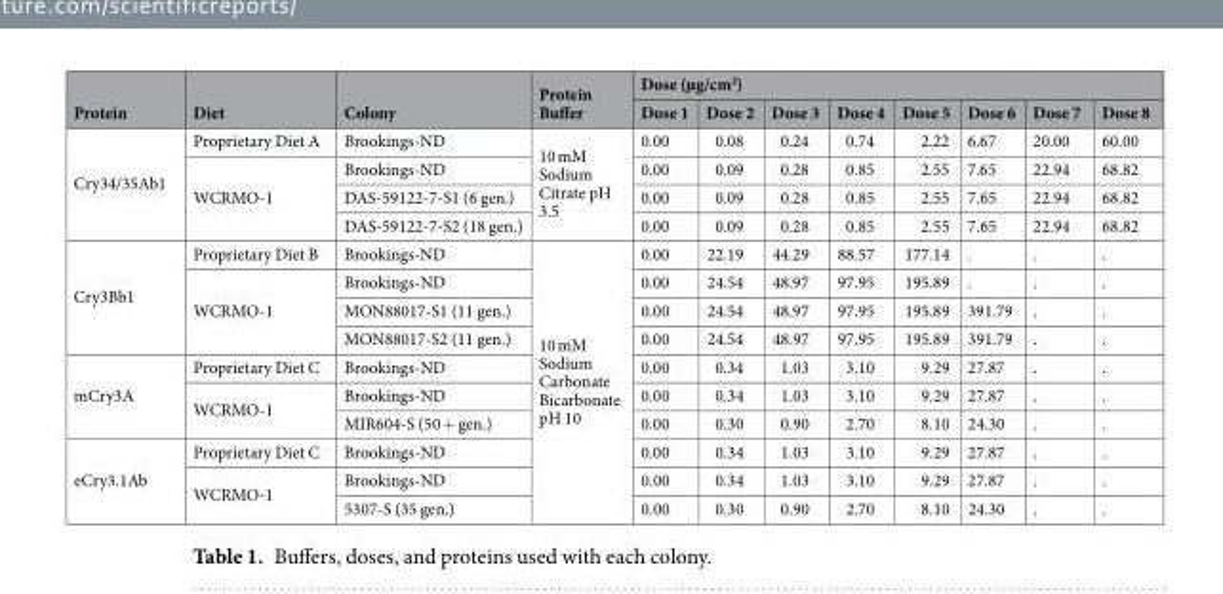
<table><thead><tr><td rowspan="2">Protein</td><td rowspan="2">Diet</td><td rowspan="2">Colony</td><td rowspan="2">Protein Buffer</td><td colspan="8">Dose (µg/cm<sup>2</sup>)</td></tr><tr><td>Dose 1</td><td>Dose 2</td><td>Dose 3</td><td>Dose 4</td><td>Dose 5</td><td>Dose 6</td><td>Dose 7</td><td>Dose 8</td></tr></thead><tbody><tr><td rowspan="4">Cry34/35Ab1</td><td>Proprietary Diet A</td><td>Brookings-ND</td><td rowspan="4">10 mM Sodium Citrate pH 3.5</td><td>0.00</td><td>0.08</td><td>0.24</td><td>0.74</td><td>2.22</td><td>6.67</td><td>20.00</td><td>60.00</td></tr><tr><td rowspan="3">WCRMO-1</td><td>Brookings-ND</td><td>0.00</td><td>0.09</td><td>0.28</td><td>0.85</td><td>2.55</td><td>7.65</td><td>22.94</td><td>68.82</td></tr><tr><td>DAS-59122-7-S1 (6 gen.)</td><td>0.00</td><td>0.09</td><td>0.28</td><td>0.85</td><td>2.55</td><td>7.65</td><td>22.94</td><td>68.82</td></tr><tr><td>DAS-59122-7-S2 (18 gen.)</td><td>0.00</td><td>0.09</td><td>0.28</td><td>0.85</td><td>2.55</td><td>7.65</td><td>22.94</td><td>68.82</td></tr><tr><td rowspan="4">Cry3Bb1</td><td>Proprietary Diet B</td><td>Brookings-ND</td><td rowspan="10">10 mM Sodium Carbonate Bicarbonate pH 10</td><td>0.00</td><td>22.19</td><td>44.29</td><td>88.57</td><td>177.14</td><td>.</td><td>.</td><td>.</td></tr><tr><td rowspan="3">WCRMO-1</td><td>Brookings-ND</td><td>0.00</td><td>24.54</td><td>48.97</td><td>97.95</td><td>195.89</td><td>.</td><td>.</td><td>.</td></tr><tr><td>MON88017-S1 (11 gen.)</td><td>0.00</td><td>24.54</td><td>48.97</td><td>97.95</td><td>195.89</td><td>391.79</td><td>.</td><td>.</td></tr><tr><td>MON88017-S2 (11 gen.)</td><td>0.00</td><td>24.54</td><td>48.97</td><td>97.95</td><td>195.89</td><td>391.79</td><td>.</td><td>.</td></tr><tr><td rowspan="3">mCry3A</td><td>Proprietary Diet C</td><td>Brookings-ND</td><td>0.00</td><td>0.34</td><td>1.03</td><td>3.10</td><td>9.29</td><td>27.87</td><td>.</td><td>.</td></tr><tr><td rowspan="2">WCRMO-1</td><td>Brookings-ND</td><td>0.00</td><td>0.34</td><td>1.03</td><td>3.10</td><td>9.29</td><td>27.87</td><td>.</td><td>.</td></tr><tr><td>MIR604-S (50 + gen.)</td><td>0.00</td><td>0.30</td><td>0.90</td><td>2.70</td><td>8.10</td><td>24.30</td><td>.</td><td>.</td></tr><tr><td rowspan="3">eCry3.1Ab</td><td>Proprietary Diet C</td><td>Brookings-ND</td><td>0.00</td><td>0.34</td><td>1.03</td><td>3.10</td><td>9.29</td><td>27.87</td><td>.</td><td>.</td></tr><tr><td rowspan="2">WCRMO-1</td><td>Brookings-ND</td><td>0.00</td><td>0.34</td><td>1.03</td><td>3.10</td><td>9.29</td><td>27.87</td><td>.</td><td>.</td></tr><tr><td>5307-S (35 gen.)</td><td>0.00</td><td>0.30</td><td>0.90</td><td>2.70</td><td>8.10</td><td>24.30</td><td>.</td><td>.</td></tr></tbody></table>